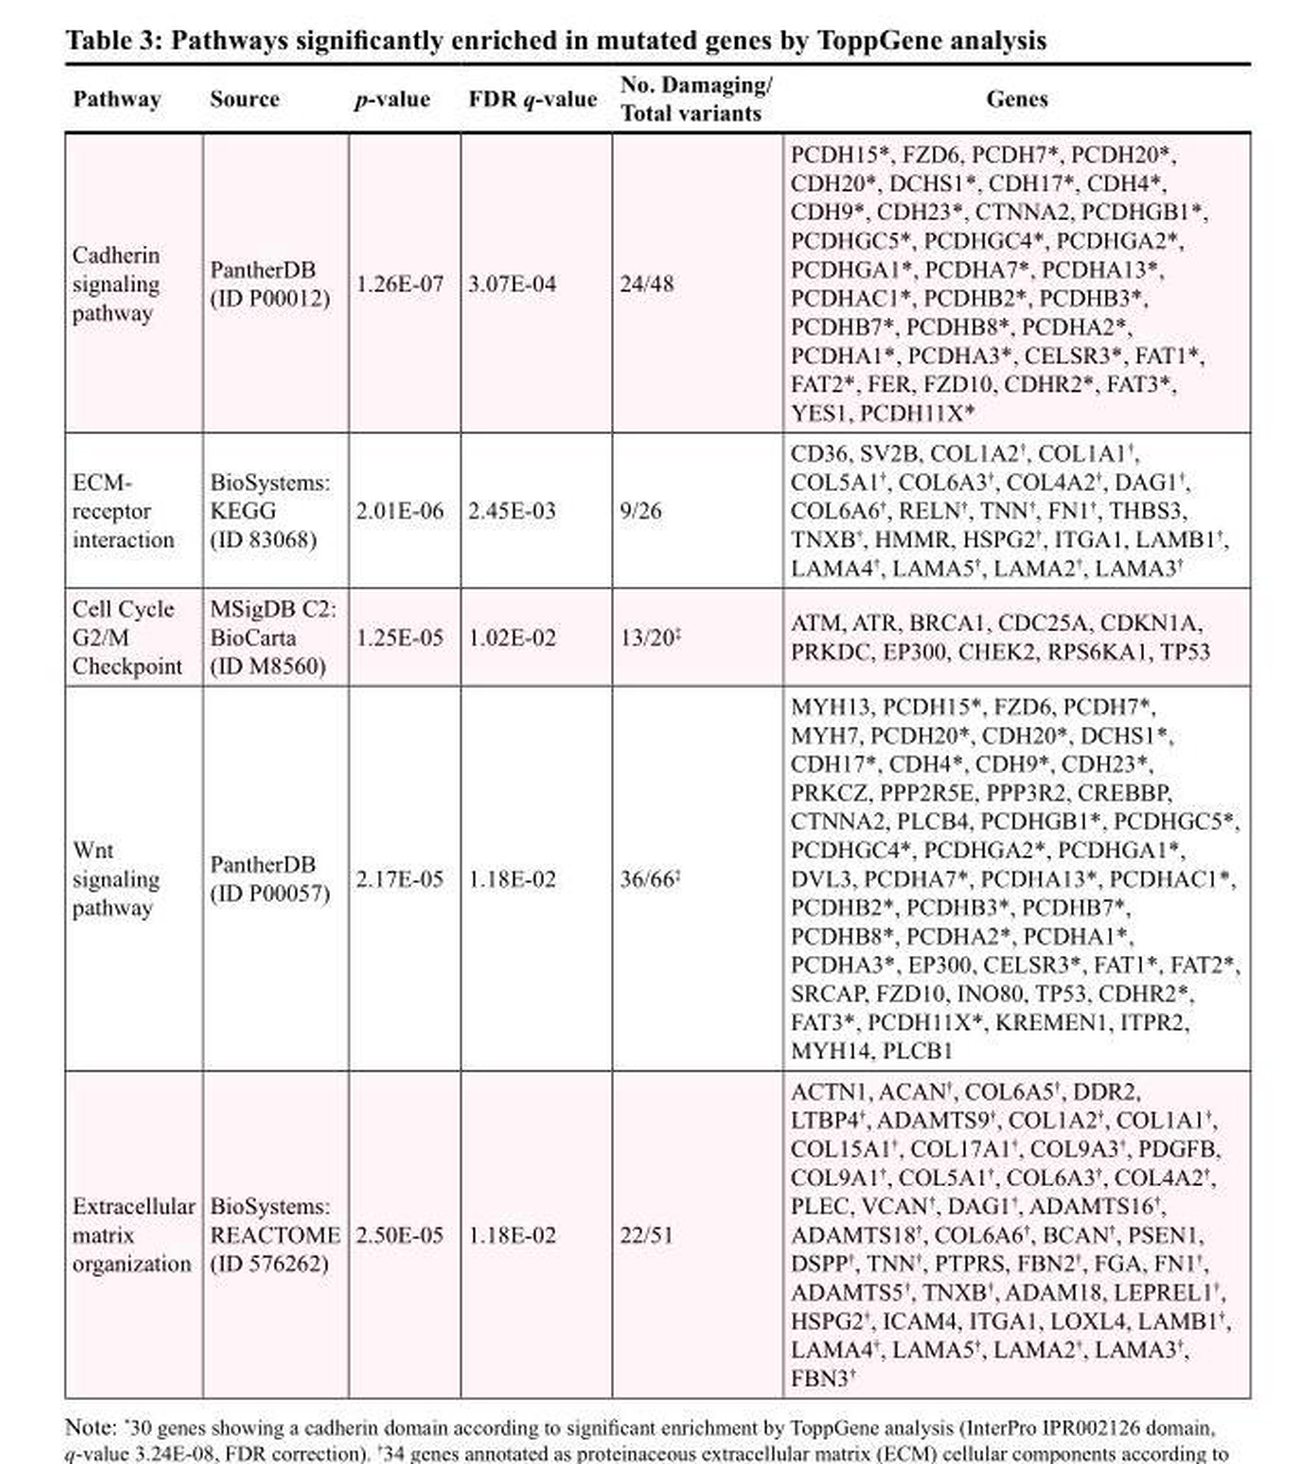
<table><thead><tr><td>Pathway</td><td>Source</td><td>p-value</td><td>FDR q-value</td><td>No. Damaging/ Total variants</td><td>Genes</td></tr></thead><tbody><tr><td>Cadherin signaling pathway</td><td>PantherDB (ID P00012)</td><td>1.26E-07</td><td>3.07E-04</td><td>24/48</td><td>PCDH15*, FZD6, PCDH7*, PCDH20*, CDH20*, DCHS1*, CDH17*, CDH4*, CDH9*, CDH23*, CTNNA2, PCDHGB1*, PCDHGC5*, PCDHGC4*, PCDHGA2*, PCDHGA1*, PCDHA7*, PCDHA13*, PCDHAC1*, PCDHB2*, PCDHB3*, PCDHB7*, PCDHB8*, PCDHA2*, PCDHA1*, PCDHA3*, CELSR3*, FAT1*, FAT2*, FER, FZD10, CDHR2*, FAT3*, YES1, PCDH11X*</td></tr><tr><td>ECM- receptor interaction</td><td>BioSystems: KEGG (ID 83068)</td><td>2.01E-06</td><td>2.45E-03</td><td>9/26</td><td>CD36, SV2B, COL1A2<sup>†</sup>, COL1A1<sup>†</sup>, COL5A1<sup>†</sup>, COL6A3<sup>†</sup>, COL4A2<sup>†</sup>, DAG1<sup>†</sup>, COL6A6<sup>†</sup>, RELN<sup>†</sup>, TNN<sup>†</sup>, FN1<sup>†</sup>, THBS3, TNXB<sup>†</sup>, HMMR, HSPG2<sup>†</sup>, ITGA1, LAMB1<sup>†</sup>, LAMA4<sup>†</sup>, LAMA5<sup>†</sup>, LAMA2<sup>†</sup>, LAMA3<sup>†</sup></td></tr><tr><td>Cell Cycle G2/M Checkpoint</td><td>MSigDB C2: BioCarta (ID M8560)</td><td>1.25E-05</td><td>1.02E-02</td><td>13/20<sup>‡</sup></td><td>ATM, ATR, BRCA1, CDC25A, CDKN1A, PRKDC, EP300, CHEK2, RPS6KA1, TP53</td></tr><tr><td>Wnt signaling pathway</td><td>PantherDB (ID P00057)</td><td>2.17E-05</td><td>1.18E-02</td><td>36/66<sup>‡</sup></td><td>MYH13, PCDH15*, FZD6, PCDH7*, MYH7, PCDH20*, CDH20*, DCHS1*, CDH17*, CDH4*, CDH9*, CDH23*, PRKCZ, PPP2R5E, PPP3R2, CREBBP, CTNNA2, PLCB4, PCDHGB1*, PCDHGC5*, PCDHGC4*, PCDHGA2*, PCDHGA1*, DVL3, PCDHA7*, PCDHA13*, PCDHAC1*, PCDHB2*, PCDHB3*, PCDHB7*, PCDHB8*, PCDHA2*, PCDHA1*, PCDHA3*, EP300, CELSR3*, FAT1*, FAT2*, SRCAP, FZD10, INO80, TP53, CDHR2*, FAT3*, PCDH11X*, KREMEN1, ITPR2, MYH14, PLCB1</td></tr><tr><td>Extracellular matrix organization</td><td>BioSystems: REACTOME (ID 576262)</td><td>2.50E-05</td><td>1.18E-02</td><td>22/51</td><td>ACTN1, ACAN†, COL6A5†, DDR2, LTBP4†, ADAMTS9†, COL1A2†, COL1A1†, COL15A1†, COL17A1†, COL9A3†, PDGFB, COL9A1†, COL5A1†, COL6A3†, COL4A2†, PLEC, VCAN†, DAG1†, ADAMTS16†, ADAMTS18†, COL6A6†, BCAN†, PSEN1, DSPP†, TNN†, PTPRS, FBN2†, FGA, FN1†, ADAMTS5†, TNXB†, ADAM18, LEPREL1†, HSPG2†, ICAM4, ITGA1, LOXL4, LAMB1†, LAMA4†, LAMA5†, LAMA2†, LAMA3†, FBN3†</td></tr></tbody></table>